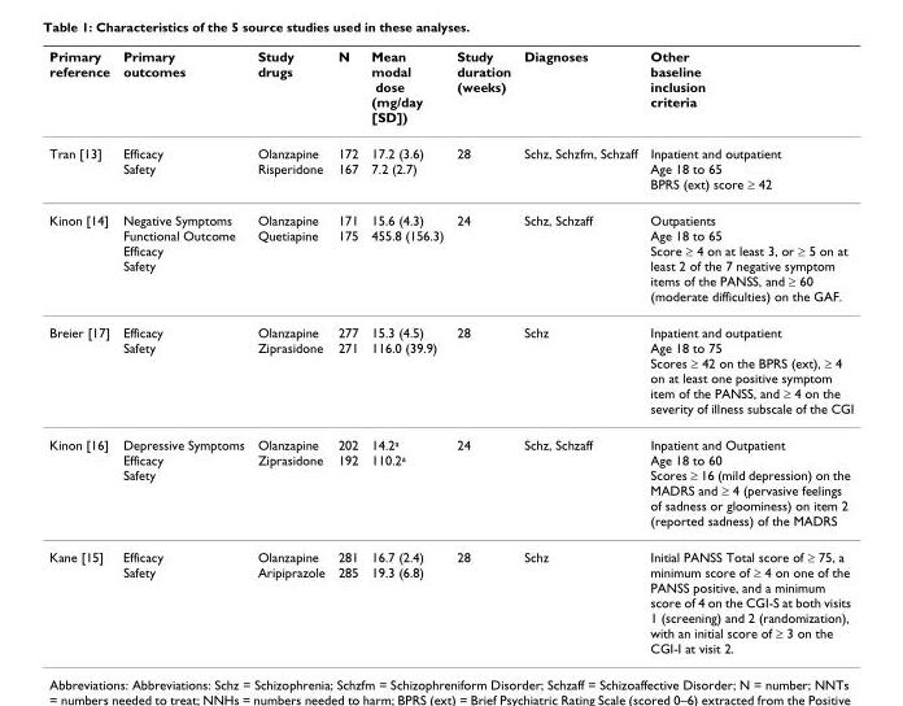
<table><thead><tr><td>Primary reference</td><td>Primary outcomes</td><td>Study drugs</td><td>N</td><td>Mean modal dose (mg/day [SD])</td><td>Study duration (weeks)</td><td>Diagnoses</td><td>Other baseline inclusion criteria</td></tr></thead><tbody><tr><td>Tran [13]</td><td>Efficacy Safety</td><td>Olanzapine Risperidone</td><td>172 167</td><td>17.2 (3.6) 7.2 (2.7)</td><td>28</td><td>Schz, Schzfm, Schzaff</td><td>Inpatient and outpatient Age 18 to 65 BPRS (ext) score ≥ 42</td></tr><tr><td>Kinon [14]</td><td>Negative Symptoms Functional Outcome Efficacy Safety</td><td>Olanzapine Quetiapine</td><td>171 175</td><td>15.6 (4.3) 455.8 (156.3)</td><td>24</td><td>Schz, Schzaff</td><td>Outpatients Age 18 to 65 Score ≥ 4 on at least 3, or ≥ 5 on at least 2 of the 7 negative symptom items of the PANSS, and ≥ 60 (moderate difficulties) on the GAF.</td></tr><tr><td>Breier [17]</td><td>Efficacy Safety</td><td>Olanzapine Ziprasidone</td><td>277 271</td><td>15.3 (4.5) 116.0 (39.9)</td><td>28</td><td>Schz</td><td>Inpatient and outpatient Age 18 to 75 Scores ≥ 42 on the BPRS (ext), ≥ 4 on at least one positive symptom item of the PANSS, and ≥ 4 on the severity of illness subscale of the CGI</td></tr><tr><td>Kinon [16]</td><td>Depressive Symptoms Efficacy Safety</td><td>Olanzapine Ziprasidone</td><td>202 192</td><td>14.2<sup>a</sup> 110.2<sup>a</sup></td><td>24</td><td>Schz, Schzaff</td><td>Inpatient and Outpatient Age 18 to 60 Scores ≥ 16 (mild depression) on the MADRS and ≥ 4 (pervasive feelings of sadness or gloominess) on item 2 (reported sadness) of the MADRS</td></tr><tr><td>Kane [15]</td><td>Efficacy Safety</td><td>Olanzapine Aripiprazole</td><td>281 285</td><td>16.7 (2.4) 19.3 (6.8)</td><td>28</td><td>Schz</td><td>Initial PANSS Total score of ≥ 75, a minimum score of ≥ 4 on one of the PANSS positive, and a minimum score of 4 on the CGI-S at both visits 1 (screening) and 2 (randomization), with an initial score of ≥ 3 on the CGI-I at visit 2.</td></tr></tbody></table>